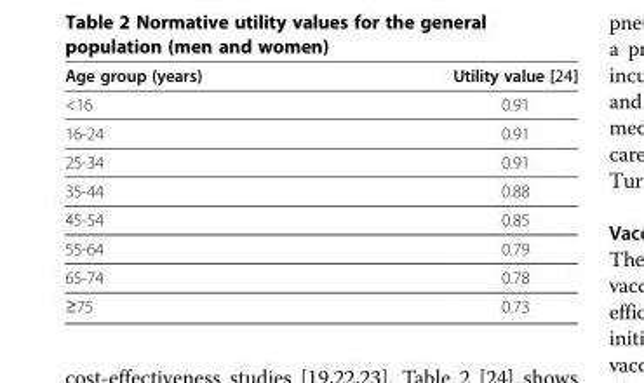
<table><thead><tr><td>Age group (years)</td><td>Utility value [24]</td></tr></thead><tbody><tr><td>&lt;16</td><td>0.91</td></tr><tr><td>16-24</td><td>0.91</td></tr><tr><td>25-34</td><td>0.91</td></tr><tr><td>35-44</td><td>0.88</td></tr><tr><td>45-54</td><td>0.85</td></tr><tr><td>55-64</td><td>0.79</td></tr><tr><td>65-74</td><td>0.78</td></tr><tr><td>≥75</td><td>0.73</td></tr></tbody></table>